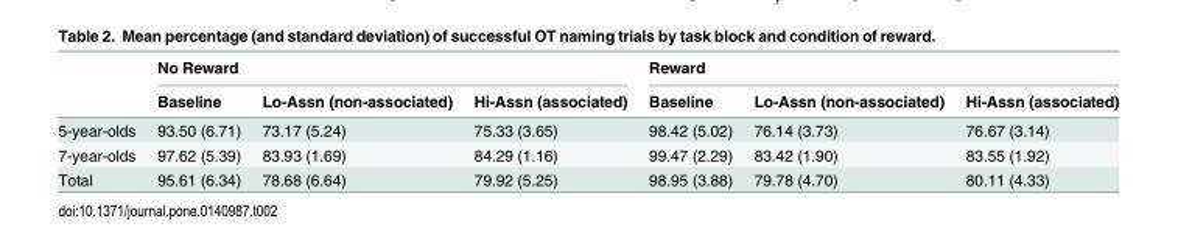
<table><thead><tr><td rowspan="2"></td><td colspan="3">No Reward</td><td colspan="3">Reward</td></tr><tr><td>Baseline</td><td>Lo-Assn (non-associated)</td><td>Hi-Assn (associated)</td><td>Baseline</td><td>Lo-Assn (non-associated)</td><td>Hi-Assn (associated)</td></tr></thead><tbody><tr><td>5-year-olds</td><td>93.50 (6.71)</td><td>73.17 (5.24)</td><td>75.33 (3.65)</td><td>98.42 (5.02)</td><td>76.14 (3.73)</td><td>76.67 (3.14)</td></tr><tr><td>7-year-olds</td><td>97.62 (5.39)</td><td>83.93 (1.69)</td><td>84.29 (1.16)</td><td>99.47 (2.29)</td><td>83.42 (1.90)</td><td>83.55 (1.92)</td></tr><tr><td>Total</td><td>95.61 (6.34)</td><td>78.68 (6.64)</td><td>79.92 (5.25)</td><td>98.95 (3.88)</td><td>79.78 (4.70)</td><td>80.11 (4.33)</td></tr></tbody></table>